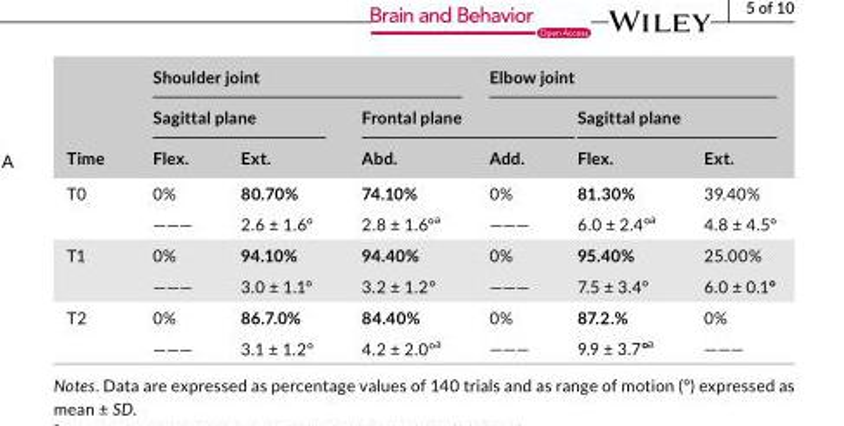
<table><thead><tr><td rowspan="3">Time</td><td colspan="3">Shoulder joint</td><td colspan="3">Elbow joint</td></tr><tr><td colspan="2">Sagittal plane</td><td colspan="2">Frontal plane</td><td colspan="2">Sagittal plane</td></tr><tr><td>Flex.</td><td>Ext.</td><td>Abd.</td><td>Add.</td><td>Flex.</td><td>Ext.</td></tr></thead><tbody><tr><td rowspan="2">T0</td><td>0%</td><td>80.70%</td><td>74.10%</td><td>0%</td><td>81.30%</td><td>39.40%</td></tr><tr><td>———</td><td>2.6 ± 1.6°</td><td>2.8 ± 1.6°<sup>a</sup></td><td>———</td><td>6.0 ± 2.4°<sup>a</sup></td><td>4.8 ± 4.5°</td></tr><tr><td rowspan="2">T1</td><td>0%</td><td>94.10%</td><td>94.40%</td><td>0%</td><td>95.40%</td><td>25.00%</td></tr><tr><td>———</td><td>3.0 ± 1.1°</td><td>3.2 ± 1.2°</td><td>———</td><td>7.5 ± 3.4°</td><td>6.0 ± 0.1°</td></tr><tr><td rowspan="2">T2</td><td>0%</td><td>86.7.0%</td><td>84.40%</td><td>0%</td><td>87.2.%</td><td>0%</td></tr><tr><td>———</td><td>3.1 ± 1.2°</td><td>4.2 ± 2.0°<sup>a</sup></td><td>———</td><td>9.9 ± 3.7°a</td><td>———</td></tr></tbody></table>